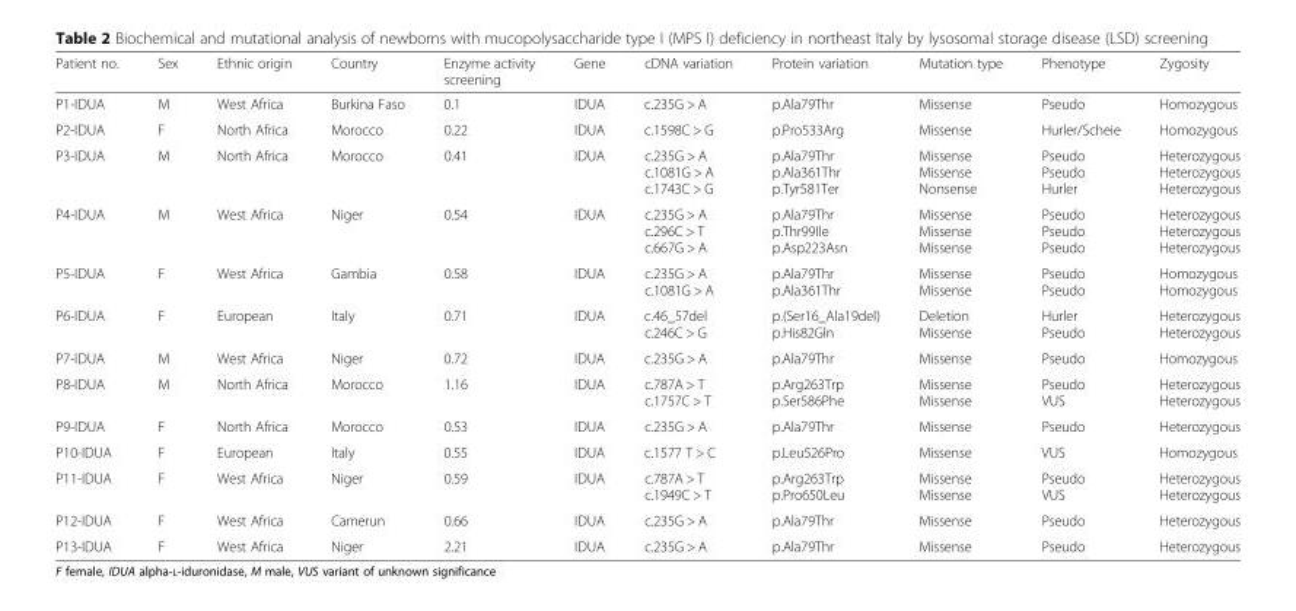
<table><thead><tr><td>Patient no.</td><td>Sex</td><td>Ethnic origin</td><td>Country</td><td>Enzyme activity screening</td><td>Gene</td><td>cDNA variation</td><td>Protein variation</td><td>Mutation type</td><td>Phenotype</td><td>Zygosity</td></tr></thead><tbody><tr><td>P1-IDUA</td><td>M</td><td>West Africa</td><td>Burkina Faso</td><td>0.1</td><td>IDUA</td><td>c.235G &gt; A</td><td>p.Ala79Thr</td><td>Missense</td><td>Pseudo</td><td>Homozygous</td></tr><tr><td>P2-IDUA</td><td>F</td><td>North Africa</td><td>Morocco</td><td>0.22</td><td>IDUA</td><td>c.1598C &gt; G</td><td>p.Pro533Arg</td><td>Missense</td><td>Hurler/Scheie</td><td>Homozygous</td></tr><tr><td>P3-IDUA</td><td>M</td><td>North Africa</td><td>Morocco</td><td>0.41</td><td>IDUA</td><td>c.235G &gt; A c.1081G &gt; A c.1743C &gt; G</td><td>p.Ala79Thr p.Ala361Thr p.Tyr581Ter</td><td>Missense Missense Nonsense</td><td>Pseudo Pseudo Hurler</td><td>Heterozygous Heterozygous Heterozygous</td></tr><tr><td>P4-IDUA</td><td>M</td><td>West Africa</td><td>Niger</td><td>0.54</td><td>IDUA</td><td>c.235G &gt; A c.296C &gt; T c.667G &gt; A</td><td>p.Ala79Thr p.Thr99Ile p.Asp223Asn</td><td>Missense Missense Missense</td><td>Pseudo Pseudo Pseudo</td><td>Heterozygous Heterozygous Heterozygous</td></tr><tr><td>P5-IDUA</td><td>F</td><td>West Africa</td><td>Gambia</td><td>0.58</td><td>IDUA</td><td>c.235G &gt; A c.1081G &gt; A</td><td>p.Ala79Thr p.Ala361Thr</td><td>Missense Missense</td><td>Pseudo Pseudo</td><td>Homozygous Homozygous</td></tr><tr><td>P6-IDUA</td><td>F</td><td>European</td><td>Italy</td><td>0.71</td><td>IDUA</td><td>c.46_57del c.246C &gt; G</td><td>p.(Ser16_Ala19del) p.His82Gln</td><td>Deletion Missense</td><td>Hurler Pseudo</td><td>Heterozygous Heterozygous</td></tr><tr><td>P7-IDUA</td><td>M</td><td>West Africa</td><td>Niger</td><td>0.72</td><td>IDUA</td><td>c.235G &gt; A</td><td>p.Ala79Thr</td><td>Missense</td><td>Pseudo</td><td>Homozygous</td></tr><tr><td>P8-IDUA</td><td>M</td><td>North Africa</td><td>Morocco</td><td>1.16</td><td>IDUA</td><td>c.787A &gt; T c.1757C &gt; T</td><td>p.Arg263Trp p.Ser586Phe</td><td>Missense Missense</td><td>Pseudo VUS</td><td>Heterozygous Heterozygous</td></tr><tr><td>P9-IDUA</td><td>F</td><td>North Africa</td><td>Morocco</td><td>0.53</td><td>IDUA</td><td>c.235G &gt; A</td><td>p.Ala79Thr</td><td>Missense</td><td>Pseudo</td><td>Heterozygous</td></tr><tr><td>P10-IDUA</td><td>F</td><td>European</td><td>Italy</td><td>0.55</td><td>IDUA</td><td>c.1577 T &gt; C</td><td>p.Leu526Pro</td><td>Missense</td><td>VUS</td><td>Homozygous</td></tr><tr><td>P11-IDUA</td><td>F</td><td>West Africa</td><td>Niger</td><td>0.59</td><td>IDUA</td><td>c.787A &gt; T c.1949C &gt; T</td><td>p.Arg263Trp p.Pro650Leu</td><td>Missense Missense</td><td>Pseudo VUS</td><td>Heterozygous Heterozygous</td></tr><tr><td>P12-IDUA</td><td>F</td><td>West Africa</td><td>Camerun</td><td>0.66</td><td>IDUA</td><td>c.235G &gt; A</td><td>p.Ala79Thr</td><td>Missense</td><td>Pseudo</td><td>Heterozygous</td></tr><tr><td>P13-IDUA</td><td>F</td><td>West Africa</td><td>Niger</td><td>2.21</td><td>IDUA</td><td>c.235G &gt; A</td><td>p.Ala79Thr</td><td>Missense</td><td>Pseudo</td><td>Heterozygous</td></tr></tbody></table>